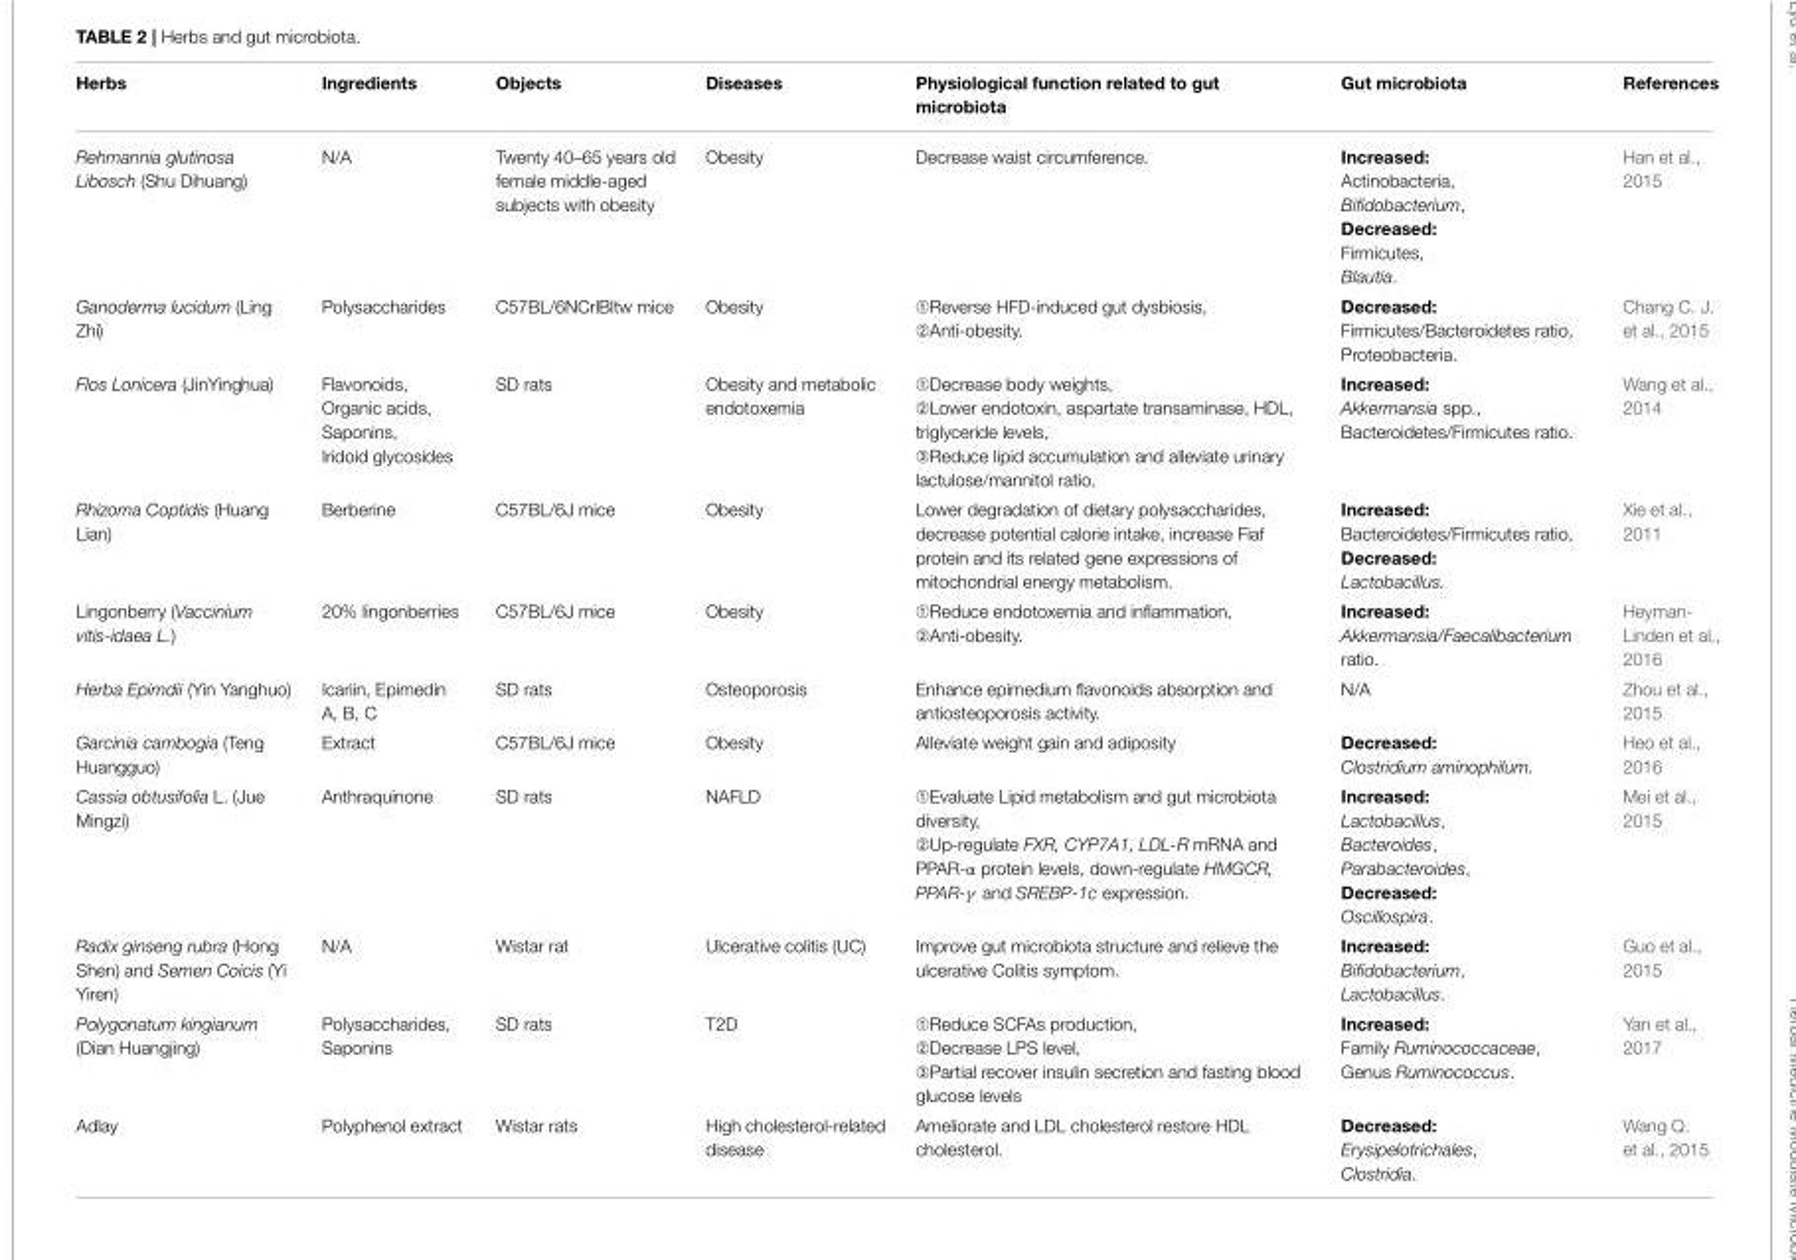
<table><thead><tr><td>Herbs</td><td>Ingredients</td><td>Objects</td><td>Diseases</td><td>Physiological function related to gut microbiota</td><td>Gut microbiota</td><td>References</td></tr></thead><tbody><tr><td>Rehmannia glutinosa Libosch (Shu Dihuang)</td><td>N/A</td><td>Twenty 40–65 years old female middle-aged subjects with obesity</td><td>Obesity</td><td>Decrease waist circumference.</td><td>Increased: Actinobacteria, Bifidobacterium, Decreased: Firmicutes, Blautia.</td><td>Han et al., 2015</td></tr><tr><td>Ganoderma lucidum (Ling Zhi)</td><td>Polysaccharides</td><td>C57BL/6NCrlBltw mice</td><td>Obesity</td><td>Reverse HFD-induced gut dysbiosis, Anti-obesity.</td><td>Decreased: Firmicutes/Bacteroidetes ratio, Proteobacteria.</td><td>Chang C. J. et al., 2015</td></tr><tr><td>Flos Lonicera (JinYinghua)</td><td>Flavonoids, Organic acids, Saponins, Iridoid glycosides</td><td>SD rats</td><td>Obesity and metabolic endotoxemia</td><td>Decrease body weights, Lower endotoxin, aspartate transaminase, HDL, triglyceride levels, Reduce lipid accumulation and alleviate urinary lactulose/mannitol ratio.</td><td>Increased: Akkermansia spp., Bacteroidetes/Firmicutes ratio.</td><td>Wang et al., 2014</td></tr><tr><td>Rhizoma Coptidis (Huang Lian)</td><td>Berberine</td><td>C57BL/6J mice</td><td>Obesity</td><td>Lower degradation of dietary polysaccharides, decrease potential calorie intake, increase Fiaf protein and its related gene expressions of mitochondrial energy metabolism.</td><td>Increased: Bacteroidetes/Firmicutes ratio, Decreased: Lactobacillus.</td><td>Xie et al., 2011</td></tr><tr><td>Lingonberry (Vaccinium vitis-idaea L.)</td><td>20% lingonberries</td><td>C57BL/6J mice</td><td>Obesity</td><td>Reduce endotoxemia and inflammation, Anti-obesity.</td><td>Increased: Akkermansia/Faecalibacterium ratio.</td><td>Heyman- Linden et al., 2016</td></tr><tr><td>Herba Epimdii (Yin Yanghuo)</td><td>Icariin, Epimedin A, B, C</td><td>SD rats</td><td>Osteoporosis</td><td>Enhance epimedium flavonoids absorption and antiosteoporosis activity.</td><td>N/A</td><td>Zhou et al., 2015</td></tr><tr><td>Garcinia cambogia (Teng Huangguo)</td><td>Extract</td><td>C57BL/6J mice</td><td>Obesity</td><td>Alleviate weight gain and adiposity</td><td>Decreased: Clostridium aminophilum.</td><td>Heo et al., 2016</td></tr><tr><td>Cassia obtusifolia L. (Jue Mingzi)</td><td>Anthraquinone</td><td>SD rats</td><td>NAFLD</td><td>Evaluate Lipid metabolism and gut microbiota diversity, Up-regulate FXR, CYP7A1, LDL-R mRNA and PPAR-α protein levels, down-regulate HMGCR, PPAR-γ and SREBP-1c expression.</td><td>Increased: Lactobacillus, Bacteroides, Parabacteroides, Decreased: Oscillospira.</td><td>Mei et al., 2015</td></tr><tr><td>Radix ginseng rubra (Hong Shen) and Semen Coicis (Yi Yiren)</td><td>N/A</td><td>Wistar rat</td><td>Ulcerative colitis (UC)</td><td>Improve gut microbiota structure and relieve the ulcerative Colitis symptom.</td><td>Increased: Bifidobacterium, Lactobacillus.</td><td>Guo et al., 2015</td></tr><tr><td>Polygonatum kingianum (Dian Huangjing)</td><td>Polysaccharides, Saponins</td><td>SD rats</td><td>T2D</td><td>Reduce SCFAs production, Decrease LPS level, Partial recover insulin secretion and fasting blood glucose levels</td><td>Increased: Family Ruminococcaceae, Genus Ruminococcus.</td><td>Yan et al., 2017</td></tr><tr><td>Adlay</td><td>Polyphenol extract</td><td>Wistar rats</td><td>High cholesterol-related disease</td><td>Ameliorate and LDL cholesterol restore HDL cholesterol.</td><td>Decreased: Erysipelotrichales, Clostridia.</td><td>Wang Q. et al., 2015</td></tr></tbody></table>